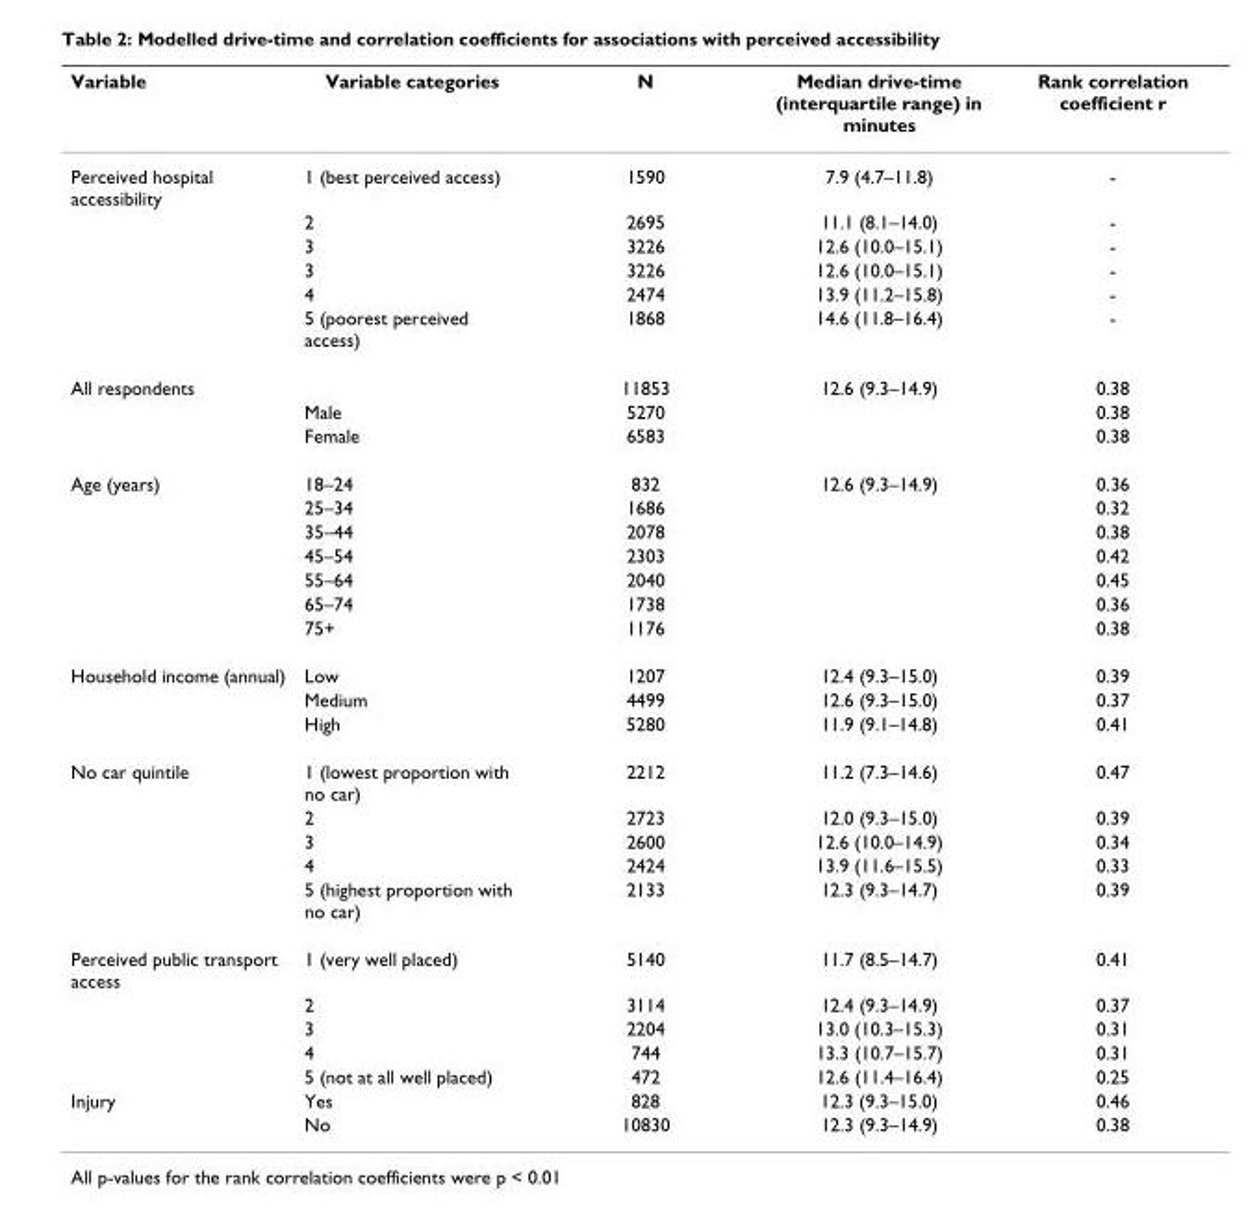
<table><thead><tr><td>Variable</td><td>Variable categories</td><td>N</td><td>Median drive-time (interquartile range) in minutes</td><td>Rank correlation coefficient r</td></tr></thead><tbody><tr><td rowspan="6">Perceived hospital accessibility</td><td>1 (best perceived access)</td><td>1590</td><td>7.9 (4.7–11.8)</td><td>-</td></tr><tr><td>2</td><td>2695</td><td>11.1 (8.1–14.0)</td><td>-</td></tr><tr><td>3</td><td>3226</td><td>12.6 (10.0–15.1)</td><td>-</td></tr><tr><td>3</td><td>3226</td><td>12.6 (10.0–15.1)</td><td>-</td></tr><tr><td>4</td><td>2474</td><td>13.9 (11.2–15.8)</td><td>-</td></tr><tr><td>5 (poorest perceived access)</td><td>1868</td><td>14.6 (11.8–16.4)</td><td>-</td></tr><tr><td rowspan="3">All respondents</td><td></td><td>11853</td><td>12.6 (9.3–14.9)</td><td>0.38</td></tr><tr><td>Male</td><td>5270</td><td></td><td>0.38</td></tr><tr><td>Female</td><td>6583</td><td></td><td>0.38</td></tr><tr><td rowspan="7">Age (years)</td><td>18–24</td><td>832</td><td>12.6 (9.3–14.9)</td><td>0.36</td></tr><tr><td>25–34</td><td>1686</td><td></td><td>0.32</td></tr><tr><td>35–44</td><td>2078</td><td></td><td>0.38</td></tr><tr><td>45–54</td><td>2303</td><td></td><td>0.42</td></tr><tr><td>55–64</td><td>2040</td><td></td><td>0.45</td></tr><tr><td>65–74</td><td>1738</td><td></td><td>0.36</td></tr><tr><td>75+</td><td>1176</td><td></td><td>0.38</td></tr><tr><td rowspan="3">Household income (annual)</td><td>Low</td><td>1207</td><td>12.4 (9.3–15.0)</td><td>0.39</td></tr><tr><td>Medium</td><td>4499</td><td>12.6 (9.3–15.0)</td><td>0.37</td></tr><tr><td>High</td><td>5280</td><td>11.9 (9.1–14.8)</td><td>0.41</td></tr><tr><td rowspan="5">No car quintile</td><td>1 (lowest proportion with no car)</td><td>2212</td><td>11.2 (7.3–14.6)</td><td>0.47</td></tr><tr><td>2</td><td>2723</td><td>12.0 (9.3–15.0)</td><td>0.39</td></tr><tr><td>3</td><td>2600</td><td>12.6 (10.0–14.9)</td><td>0.34</td></tr><tr><td>4</td><td>2424</td><td>13.9 (11.6–15.5)</td><td>0.33</td></tr><tr><td>5 (highest proportion with no car)</td><td>2133</td><td>12.3 (9.3–14.7)</td><td>0.39</td></tr><tr><td rowspan="5">Perceived public transport access</td><td>1 (very well placed)</td><td>5140</td><td>11.7 (8.5–14.7)</td><td>0.41</td></tr><tr><td>2</td><td>3114</td><td>12.4 (9.3–14.9)</td><td>0.37</td></tr><tr><td>3</td><td>2204</td><td>13.0 (10.3–15.3)</td><td>0.31</td></tr><tr><td>4</td><td>744</td><td>13.3 (10.7–15.7)</td><td>0.31</td></tr><tr><td>5 (not at all well placed)</td><td>472</td><td>12.6 (11.4–16.4)</td><td>0.25</td></tr><tr><td rowspan="2">Injury</td><td>Yes</td><td>828</td><td>12.3 (9.3–15.0)</td><td>0.46</td></tr><tr><td>No</td><td>10830</td><td>12.3 (9.3–14.9)</td><td>0.38</td></tr></tbody></table>